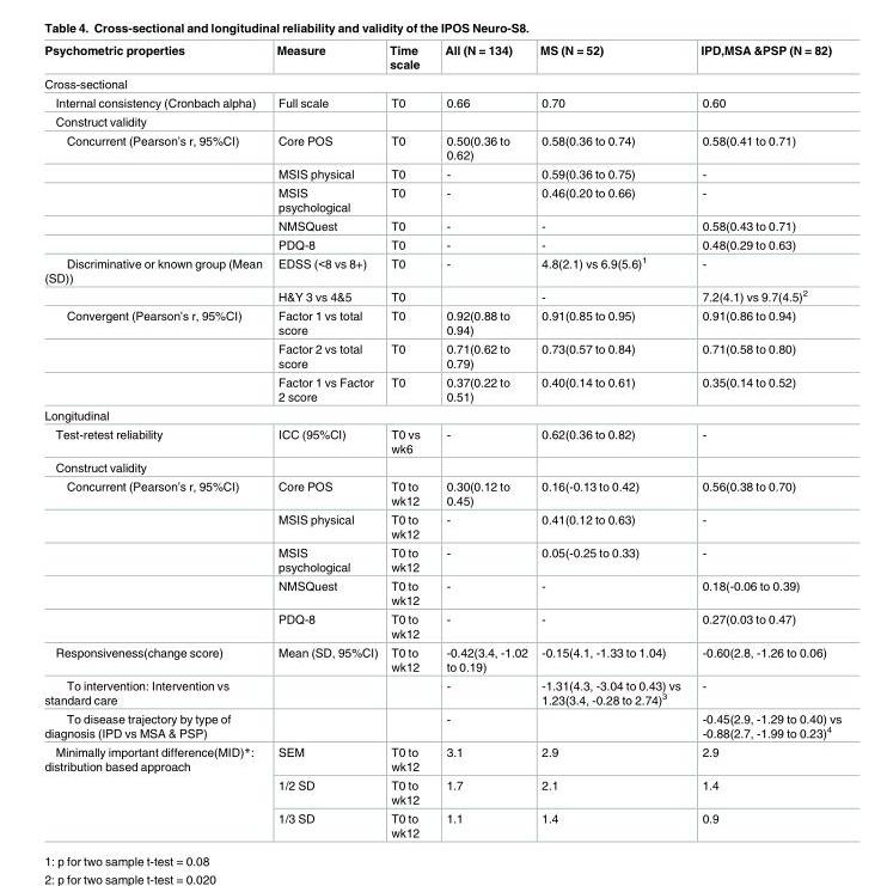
<table><thead><tr><td>Psychometric properties</td><td>Measure</td><td>Time scale</td><td>All (N = 134)</td><td>MS (N = 52)</td><td>IPD,MSA &amp;PSP (N = 82)</td></tr></thead><tbody><tr><td colspan="6">Cross-sectional</td></tr><tr><td>Internal consistency (Cronbach alpha)</td><td>Full scale</td><td>T0</td><td>0.66</td><td>0.70</td><td>0.60</td></tr><tr><td colspan="6">Construct validity</td></tr><tr><td rowspan="5">Concurrent (Pearson’s r, 95%CI)</td><td>Core POS</td><td>T0</td><td>0.50(0.36 to 0.62)</td><td>0.58(0.36 to 0.74)</td><td>0.58(0.41 to 0.71)</td></tr><tr><td>MSIS physical</td><td>T0</td><td>-</td><td>0.59(0.36 to 0.75)</td><td>-</td></tr><tr><td>MSIS psychological</td><td>T0</td><td>-</td><td>0.46(0.20 to 0.66)</td><td>-</td></tr><tr><td>NMSQuest</td><td>T0</td><td>-</td><td>-</td><td>0.58(0.43 to 0.71)</td></tr><tr><td>PDQ-8</td><td>T0</td><td>-</td><td>-</td><td>0.48(0.29 to 0.63)</td></tr><tr><td rowspan="2">Discriminative or known group (Mean (SD))</td><td>EDSS (&lt;8 vs 8+)</td><td>T0</td><td>-</td><td>4.8(2.1) vs 6.9(5.6)<sup>1</sup></td><td>-</td></tr><tr><td>H&amp;Y 3 vs 4&amp;5</td><td>T0</td><td></td><td>-</td><td>7.2(4.1) vs 9.7(4.5)<sup>2</sup></td></tr><tr><td rowspan="3">Convergent (Pearson’s r, 95%CI)</td><td>Factor 1 vs total score</td><td>T0</td><td>0.92(0.88 to 0.94)</td><td>0.91(0.85 to 0.95)</td><td>0.91(0.86 to 0.94)</td></tr><tr><td>Factor 2 vs total score</td><td>T0</td><td>0.71(0.62 to 0.79)</td><td>0.73(0.57 to 0.84)</td><td>0.71(0.58 to 0.80)</td></tr><tr><td>Factor 1 vs Factor 2 score</td><td>T0</td><td>0.37(0.22 to 0.51)</td><td>0.40(0.14 to 0.61)</td><td>0.35(0.14 to 0.52)</td></tr><tr><td colspan="6">Longitudinal</td></tr><tr><td>Test-retest reliability</td><td>ICC (95%CI)</td><td>T0 vs wk6</td><td>-</td><td>0.62(0.36 to 0.82)</td><td>-</td></tr><tr><td colspan="6">Construct validity</td></tr><tr><td rowspan="5">Concurrent (Pearson’s r, 95%CI)</td><td>Core POS</td><td>T0 to wk12</td><td>0.30(0.12 to 0.45)</td><td>0.16(-0.13 to 0.42)</td><td>0.56(0.38 to 0.70)</td></tr><tr><td>MSIS physical</td><td>T0 to wk12</td><td>-</td><td>0.41(0.12 to 0.63)</td><td>-</td></tr><tr><td>MSIS psychological</td><td>T0 to wk12</td><td>-</td><td>0.05(-0.25 to 0.33)</td><td>-</td></tr><tr><td>NMSQuest</td><td>T0 to wk12</td><td>-</td><td>-</td><td>0.18(-0.06 to 0.39)</td></tr><tr><td>PDQ-8</td><td>T0 to wk12</td><td>-</td><td>-</td><td>0.27(0.03 to 0.47)</td></tr><tr><td>Responsiveness(change score)</td><td>Mean (SD, 95%CI)</td><td>T0 to wk12</td><td>-0.42(3.4, -1.02 to 0.19)</td><td>-0.15(4.1, -1.33 to 1.04)</td><td>-0.60(2.8, -1.26 to 0.06)</td></tr><tr><td>To intervention: Intervention vs standard care</td><td></td><td></td><td>-</td><td>-1.31(4.3, -3.04 to 0.43) vs 1.23(3.4, -0.28 to 2.74)<sup>3</sup></td><td>-</td></tr><tr><td>To disease trajectory by type of diagnosis (IPD vs MSA &amp; PSP)</td><td></td><td></td><td>-</td><td></td><td>-0.45(2.9, -1.29 to 0.40) vs -0.88(2.7, -1.99 to 0.23)<sup>4</sup></td></tr><tr><td rowspan="3">Minimally important difference(MID)*: distribution based approach</td><td>SEM</td><td>T0 to wk12</td><td>3.1</td><td>2.9</td><td>2.9</td></tr><tr><td>1/2 SD</td><td>T0 to wk12</td><td>1.7</td><td>2.1</td><td>1.4</td></tr><tr><td>1/3 SD</td><td>T0 to wk12</td><td>1.1</td><td>1.4</td><td>0.9</td></tr></tbody></table>